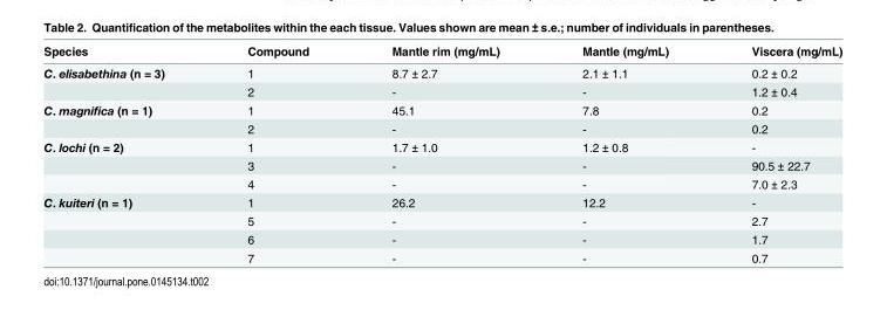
<table><thead><tr><td>Species</td><td>Compound</td><td>Mantle rim (mg/mL)</td><td>Mantle (mg/mL)</td><td>Viscera (mg/mL)</td></tr></thead><tbody><tr><td rowspan="2">C. elisabethina (n = 3)</td><td>1</td><td>8.7 ± 2.7</td><td>2.1 ± 1.1</td><td>0.2 ± 0.2</td></tr><tr><td>2</td><td>-</td><td>-</td><td>1.2 ± 0.4</td></tr><tr><td rowspan="2">C. magnifica (n = 1)</td><td>1</td><td>45.1</td><td>7.8</td><td>0.2</td></tr><tr><td>2</td><td>-</td><td>-</td><td>0.2</td></tr><tr><td rowspan="3">C. lochi (n = 2)</td><td>1</td><td>1.7 ± 1.0</td><td>1.2 ± 0.8</td><td>-</td></tr><tr><td>3</td><td>-</td><td>-</td><td>90.5 ± 22.7</td></tr><tr><td>4</td><td>-</td><td>-</td><td>7.0 ± 2.3</td></tr><tr><td rowspan="4">C. kuiteri (n = 1)</td><td>1</td><td>26.2</td><td>12.2</td><td>-</td></tr><tr><td>5</td><td>-</td><td>-</td><td>2.7</td></tr><tr><td>6</td><td>-</td><td>-</td><td>1.7</td></tr><tr><td>7</td><td>-</td><td>-</td><td>0.7</td></tr></tbody></table>